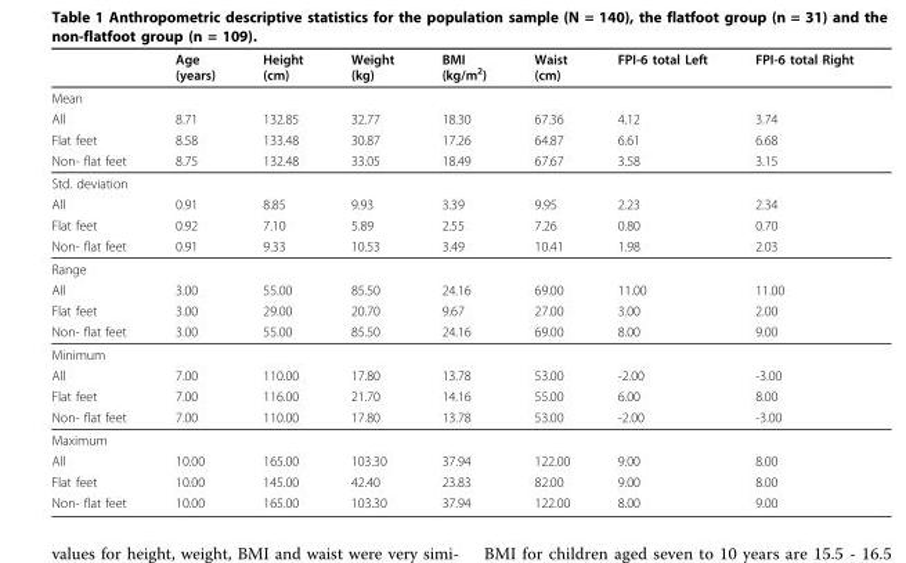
<table><thead><tr><td></td><td>Age (years)</td><td>Height (cm)</td><td>Weight (kg)</td><td>BMI (kg/m<sup>2</sup>)</td><td>Waist (cm)</td><td>FPI-6 total Left</td><td>FPI-6 total Right</td></tr></thead><tbody><tr><td colspan="8">Mean</td></tr><tr><td>All</td><td>8.71</td><td>132.85</td><td>32.77</td><td>18.30</td><td>67.36</td><td>4.12</td><td>3.74</td></tr><tr><td>Flat feet</td><td>8.58</td><td>133.48</td><td>30.87</td><td>17.26</td><td>64.87</td><td>6.61</td><td>6.68</td></tr><tr><td>Non- flat feet</td><td>8.75</td><td>132.48</td><td>33.05</td><td>18.49</td><td>67.67</td><td>3.58</td><td>3.15</td></tr><tr><td colspan="8">Std. deviation</td></tr><tr><td>All</td><td>0.91</td><td>8.85</td><td>9.93</td><td>3.39</td><td>9.95</td><td>2.23</td><td>2.34</td></tr><tr><td>Flat feet</td><td>0.92</td><td>7.10</td><td>5.89</td><td>2.55</td><td>7.26</td><td>0.80</td><td>0.70</td></tr><tr><td>Non- flat feet</td><td>0.91</td><td>9.33</td><td>10.53</td><td>3.49</td><td>10.41</td><td>1.98</td><td>2.03</td></tr><tr><td colspan="8">Range</td></tr><tr><td>All</td><td>3.00</td><td>55.00</td><td>85.50</td><td>24.16</td><td>69.00</td><td>11.00</td><td>11.00</td></tr><tr><td>Flat feet</td><td>3.00</td><td>29.00</td><td>20.70</td><td>9.67</td><td>27.00</td><td>3.00</td><td>2.00</td></tr><tr><td>Non- flat feet</td><td>3.00</td><td>55.00</td><td>85.50</td><td>24.16</td><td>69.00</td><td>8.00</td><td>9.00</td></tr><tr><td colspan="8">Minimum</td></tr><tr><td>All</td><td>7.00</td><td>110.00</td><td>17.80</td><td>13.78</td><td>53.00</td><td>-2.00</td><td>-3.00</td></tr><tr><td>Flat feet</td><td>7.00</td><td>116.00</td><td>21.70</td><td>14.16</td><td>55.00</td><td>6.00</td><td>8.00</td></tr><tr><td>Non- flat feet</td><td>7.00</td><td>110.00</td><td>17.80</td><td>13.78</td><td>53.00</td><td>-2.00</td><td>-3.00</td></tr><tr><td colspan="8">Maximum</td></tr><tr><td>All</td><td>10.00</td><td>165.00</td><td>103.30</td><td>37.94</td><td>122.00</td><td>9.00</td><td>8.00</td></tr><tr><td>Flat feet</td><td>10.00</td><td>145.00</td><td>42.40</td><td>23.83</td><td>82.00</td><td>9.00</td><td>8.00</td></tr><tr><td>Non- flat feet</td><td>10.00</td><td>165.00</td><td>103.30</td><td>37.94</td><td>122.00</td><td>8.00</td><td>9.00</td></tr></tbody></table>